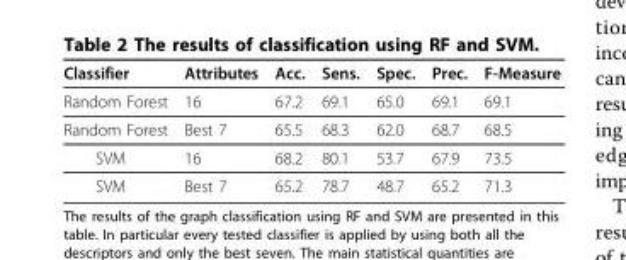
<table><thead><tr><td>Classifier</td><td>Attributes</td><td>Acc.</td><td>Sens.</td><td>Spec.</td><td>Prec.</td><td>F-Measure</td></tr></thead><tbody><tr><td>Random Forest</td><td>16</td><td>67.2</td><td>69.1</td><td>65.0</td><td>69.1</td><td>69.1</td></tr><tr><td>Random Forest</td><td>Best 7</td><td>65.5</td><td>68.3</td><td>62.0</td><td>68.7</td><td>68.5</td></tr><tr><td>SVM</td><td>16</td><td>68.2</td><td>80.1</td><td>53.7</td><td>67.9</td><td>73.5</td></tr><tr><td>SVM</td><td>Best 7</td><td>65.2</td><td>78.7</td><td>48.7</td><td>65.2</td><td>71.3</td></tr></tbody></table>